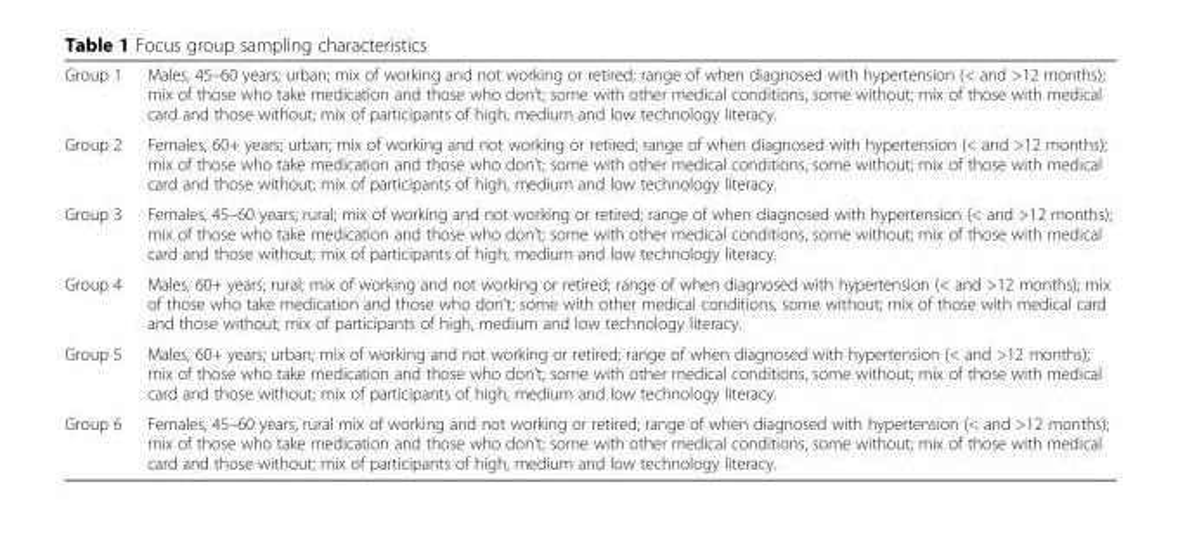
<table><tbody><tr><td>Group 1</td><td>Males, 45–60 years; urban; mix of working and not working or retired; range of when diagnosed with hypertension (&lt; and &gt;12 months); mix of those who take medication and those who don’t; some with other medical conditions, some without; mix of those with medical card and those without; mix of participants of high, medium and low technology literacy.</td></tr><tr><td>Group 2</td><td>Females, 60+ years; urban; mix of working and not working or retired; range of when diagnosed with hypertension (&lt; and &gt;12 months); mix of those who take medication and those who don’t; some with other medical conditions, some without; mix of those with medical card and those without; mix of participants of high, medium and low technology literacy.</td></tr><tr><td>Group 3</td><td>Females, 45–60 years; rural; mix of working and not working or retired; range of when diagnosed with hypertension (&lt; and &gt;12 months); mix of those who take medication and those who don’t; some with other medical conditions, some without; mix of those with medical card and those without; mix of participants of high, medium and low technology literacy.</td></tr><tr><td>Group 4</td><td>Males, 60+ years; rural; mix of working and not working or retired; range of when diagnosed with hypertension (&lt; and &gt;12 months); mix of those who take medication and those who don’t; some with other medical conditions, some without; mix of those with medical card and those without; mix of participants of high, medium and low technology literacy.</td></tr><tr><td>Group 5</td><td>Males, 60+ years; urban; mix of working and not working or retired; range of when diagnosed with hypertension (&lt; and &gt;12 months); mix of those who take medication and those who don’t; some with other medical conditions, some without; mix of those with medical card and those without; mix of participants of high, medium and low technology literacy.</td></tr><tr><td>Group 6</td><td>Females, 45–60 years, rural mix of working and not working or retired; range of when diagnosed with hypertension (&lt; and &gt;12 months); mix of those who take medication and those who don’t; some with other medical conditions, some without; mix of those with medical card and those without; mix of participants of high, medium and low technology literacy.</td></tr></tbody></table>